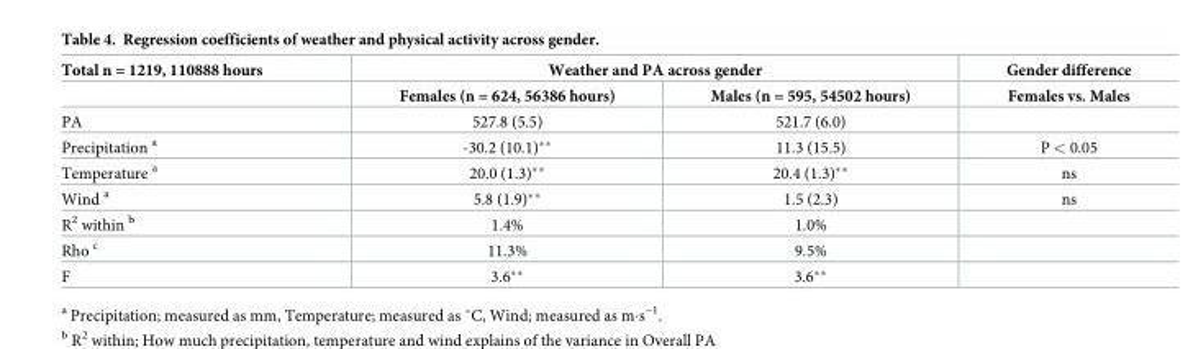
<table><thead><tr><td rowspan="2">Total n = 1219, 110888 hours</td><td colspan="2">Weather and PA across gender</td><td rowspan="2">Gender difference Females vs. Males</td></tr><tr><td>Females (n = 624, 56386 hours)</td><td>Males (n = 595, 54502 hours)</td></tr></thead><tbody><tr><td>PA</td><td>527.8 (5.5)</td><td>521.7 (6.0)</td><td></td></tr><tr><td>Precipitation <sup>a</sup></td><td>-30.2 (10.1)**</td><td>11.3 (15.5)</td><td>P &lt; 0.05</td></tr><tr><td>Temperature <sup>a</sup></td><td>20.0 (1.3)**</td><td>20.4 (1.3)**</td><td>ns</td></tr><tr><td>Wind <sup>a</sup></td><td>5.8 (1.9)**</td><td>1.5 (2.3)</td><td>ns</td></tr><tr><td>R<sup>2</sup> within <sup>b</sup></td><td>1.4%</td><td>1.0%</td><td></td></tr><tr><td>Rho <sup>c</sup></td><td>11.3%</td><td>9.5%</td><td></td></tr><tr><td>F</td><td>3.6**</td><td>3.6**</td><td></td></tr></tbody></table>